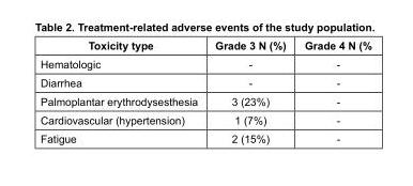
<table><thead><tr><td>Toxicity type</td><td>Grade 3 N (%)</td><td>Grade 4 N (%</td></tr></thead><tbody><tr><td>Hematologic</td><td>-</td><td>-</td></tr><tr><td>Diarrhea</td><td>-</td><td>-</td></tr><tr><td>Palmoplantar erythrodysesthesia</td><td>3 (23%)</td><td>-</td></tr><tr><td>Cardiovascular (hypertension)</td><td>1 (7%)</td><td>-</td></tr><tr><td>Fatigue</td><td>2 (15%)</td><td>-</td></tr></tbody></table>